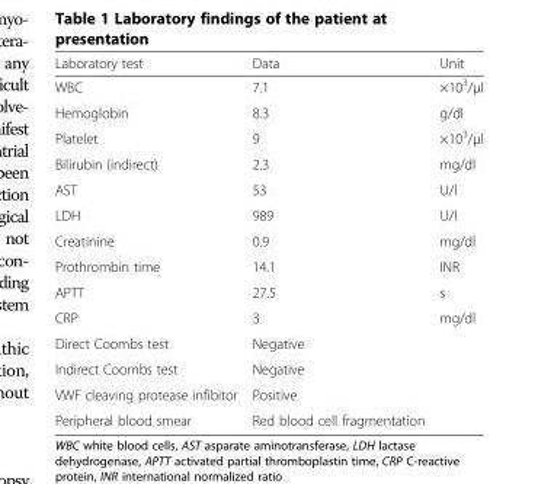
<table><thead><tr><td>Laboratory test</td><td>Data</td><td>Unit</td></tr></thead><tbody><tr><td>WBC</td><td>7.1</td><td>×10<sup>3</sup>/μl</td></tr><tr><td>Hemoglobin</td><td>8.3</td><td>g/dl</td></tr><tr><td>Platelet</td><td>9</td><td>×10<sup>3</sup>/μl</td></tr><tr><td>Bilirubin (indirect)</td><td>2.3</td><td>mg/dl</td></tr><tr><td>AST</td><td>53</td><td>U/l</td></tr><tr><td>LDH</td><td>989</td><td>U/l</td></tr><tr><td>Creatinine</td><td>0.9</td><td>mg/dl</td></tr><tr><td>Prothrombin time</td><td>14.1</td><td>INR</td></tr><tr><td>APTT</td><td>27.5</td><td>s</td></tr><tr><td>CRP</td><td>3</td><td>mg/dl</td></tr><tr><td>Direct Coombs test</td><td>Negative</td><td></td></tr><tr><td>Indirect Coombs test</td><td>Negative</td><td></td></tr><tr><td>VWF cleaving protease infibitor</td><td>Positive</td><td></td></tr><tr><td>Peripheral blood smear</td><td>Red blood cell fragmentation</td><td></td></tr></tbody></table>